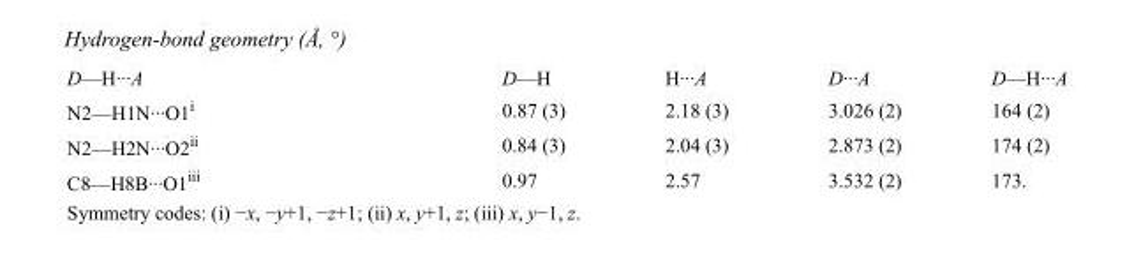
<table><tbody><tr><td>D—H···A</td><td>D—H</td><td>H···A</td><td>D···A</td><td>D—H···A</td></tr><tr><td>N2—H1N···O1<sup>i</sup></td><td>0.87 (3)</td><td>2.18 (3)</td><td>3.026 (2)</td><td>164 (2)</td></tr><tr><td>N2—H2N···O2<sup>ii</sup></td><td>0.84 (3)</td><td>2.04 (3)</td><td>2.873 (2)</td><td>174 (2)</td></tr><tr><td>C8—H8B···O1<sup>iii</sup></td><td>0.97</td><td>2.57</td><td>3.532 (2)</td><td>173.</td></tr></tbody></table>